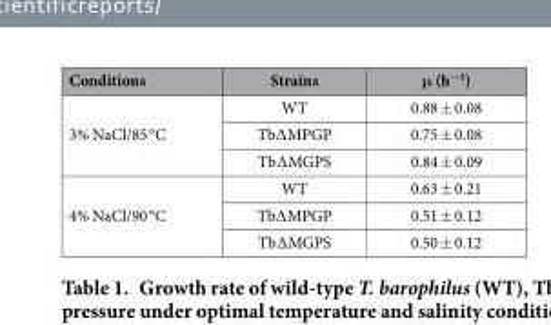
<table><thead><tr><td>Conditions</td><td>Strains</td><td>μ (h<sup>−1</sup>)</td></tr></thead><tbody><tr><td rowspan="3">3% NaCl/85 °C</td><td>WT</td><td>0.88 ± 0.08</td></tr><tr><td>Tb∆ MPGP</td><td>0.75 ± 0.08</td></tr><tr><td>Tb∆ MGPS</td><td>0.84 ± 0.09</td></tr><tr><td rowspan="3">4% NaCl/90 °C</td><td>WT</td><td>0.63 ± 0.21</td></tr><tr><td>Tb∆ MPGP</td><td>0.51 ± 0.12</td></tr><tr><td>Tb∆ MGPS</td><td>0.50 ± 0.12</td></tr></tbody></table>